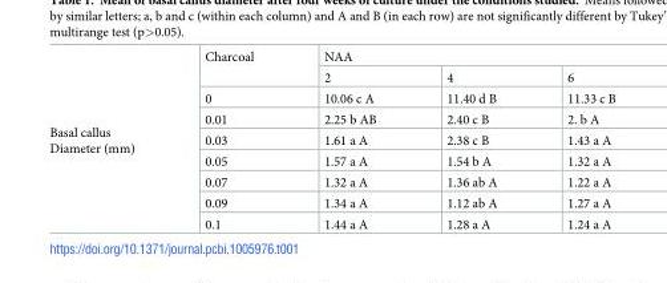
<table><tbody><tr><td rowspan="9">Basal callus Diameter (mm)</td><td rowspan="2">Charcoal</td><td colspan="3">NAA</td></tr><tr><td>2</td><td>4</td><td>6</td></tr><tr><td>0</td><td>10.06 c A</td><td>11.40 d B</td><td>11.33 c B</td></tr><tr><td>0.01</td><td>2.25 b AB</td><td>2.40 c B</td><td>2. b A</td></tr><tr><td>0.03</td><td>1.61 a A</td><td>2.38 c B</td><td>1.43 a A</td></tr><tr><td>0.05</td><td>1.57 a A</td><td>1.54 b A</td><td>1.32 a A</td></tr><tr><td>0.07</td><td>1.32 a A</td><td>1.36 ab A</td><td>1.22 a A</td></tr><tr><td>0.09</td><td>1.34 a A</td><td>1.12 ab A</td><td>1.27 a A</td></tr><tr><td>0.1</td><td>1.44 a A</td><td>1.28 a A</td><td>1.24 a A</td></tr></tbody></table>